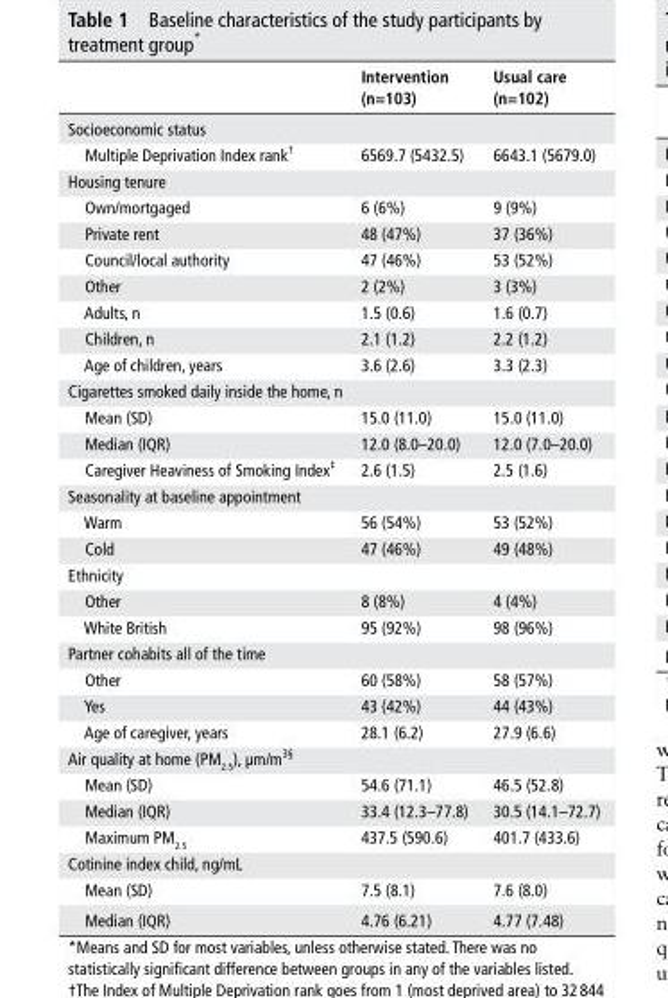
<table><thead><tr><td></td><td>Intervention (n=103)</td><td>usual care (n=102)</td></tr></thead><tbody><tr><td colspan="3">Socioeconomic status</td></tr><tr><td>Multiple Deprivation Index rank<sup>†</sup></td><td>6569.7 (5432.5)</td><td>6643.1 (5679.0)</td></tr><tr><td colspan="3">Housing tenure</td></tr><tr><td>Own/mortgaged</td><td>6 (6%)</td><td>9 (9%)</td></tr><tr><td>Private rent</td><td>48 (47%)</td><td>37 (36%)</td></tr><tr><td>Council/local authority</td><td>47 (46%)</td><td>53 (52%)</td></tr><tr><td>Other</td><td>2 (2%)</td><td>3 (3%)</td></tr><tr><td>Adults, n</td><td>1.5 (0.6)</td><td>1.6 (0.7)</td></tr><tr><td>Children, n</td><td>2.1 (1.2)</td><td>2.2 (1.2)</td></tr><tr><td>Age of children, years</td><td>3.6 (2.6)</td><td>3.3 (2.3)</td></tr><tr><td colspan="3">Cigarettes smoked daily inside the home, n</td></tr><tr><td>Mean (SD)</td><td>15.0 (11.0)</td><td>15.0 (11.0)</td></tr><tr><td>Median (IQR)</td><td>12.0 (8.0–20.0)</td><td>12.0 (7.0–20.0)</td></tr><tr><td>Caregiver Heaviness of Smoking Index<sup>‡</sup></td><td>2.6 (1.5)</td><td>2.5 (1.6)</td></tr><tr><td colspan="3">Seasonality at baseline appointment</td></tr><tr><td>Warm</td><td>56 (54%)</td><td>53 (52%)</td></tr><tr><td>Cold</td><td>47 (46%)</td><td>49 (48%)</td></tr><tr><td colspan="3">Ethnicity</td></tr><tr><td>Other</td><td>8 (8%)</td><td>4 (4%)</td></tr><tr><td>White British</td><td>95 (92%)</td><td>98 (96%)</td></tr><tr><td colspan="3">Partner cohabits all of the time</td></tr><tr><td>Other</td><td>60 (58%)</td><td>58 (57%)</td></tr><tr><td>Yes</td><td>43 (42%)</td><td>44 (43%)</td></tr><tr><td>Age of caregiver, years</td><td>28.1 (6.2)</td><td>27.9 (6.6)</td></tr><tr><td colspan="3">Air quality at home (PM<sub>2.5</sub>), µm/m<sup>3§</sup></td></tr><tr><td>Mean (SD)</td><td>54.6 (71.1)</td><td>46.5 (52.8)</td></tr><tr><td>Median (IQR)</td><td>33.4 (12.3–77.8)</td><td>30.5 (14.1–72.7)</td></tr><tr><td>Maximum PM<sub>2.5</sub></td><td>437.5 (590.6)</td><td>401.7 (433.6)</td></tr><tr><td colspan="3">Cotinine index child, ng/mL</td></tr><tr><td>Mean (SD)</td><td>7.5 (8.1)</td><td>7.6 (8.0)</td></tr><tr><td>Median (IQR)</td><td>4.76 (6.21)</td><td>4.77 (7.48)</td></tr></tbody></table>